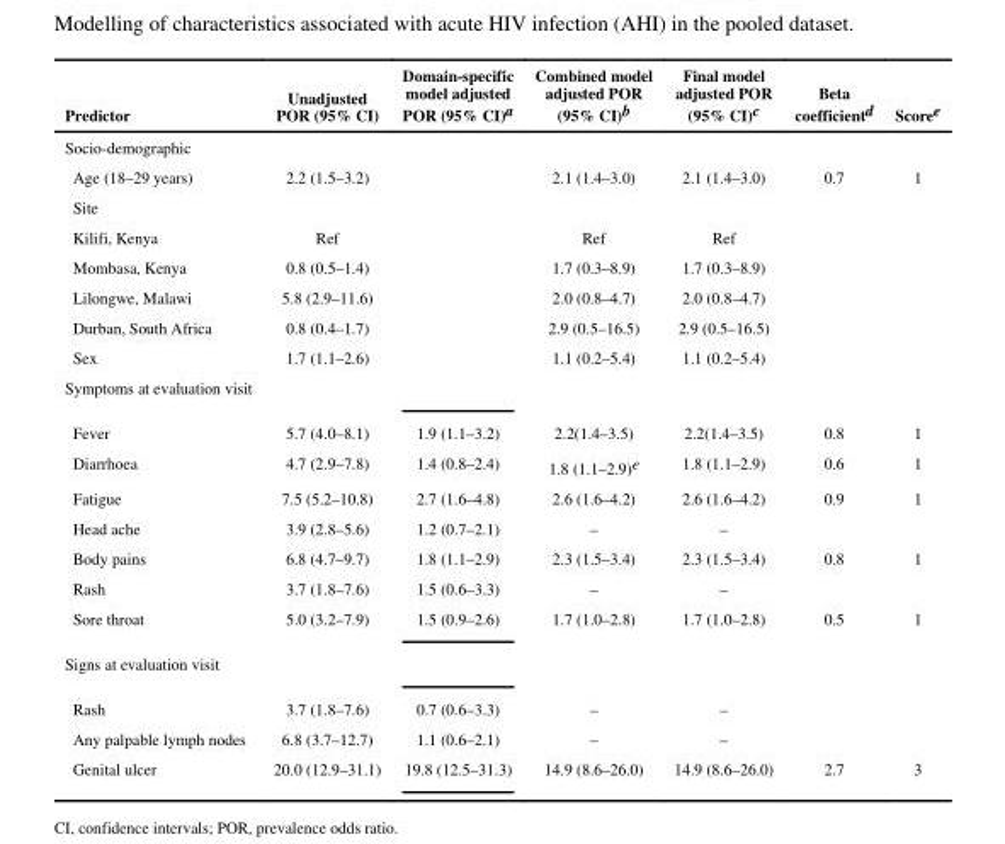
<table><thead><tr><td>Predictor</td><td>Unadjusted POR (95% CI)</td><td>Domain-specific model adjusted POR (95% CI)<sup>a</sup></td><td>Combined model adjusted POR (95% CI)<sup>b</sup></td><td>Final model adjusted POR (95% CI)<sup>c</sup></td><td>Beta coefficient<sup>d</sup></td><td>Score<sup>e</sup></td></tr></thead><tbody><tr><td colspan="7">Socio-demographic</td></tr><tr><td>Age (18–29 years)</td><td>2.2 (1.5–3.2)</td><td></td><td>2.1 (1.4–3.0)</td><td>2.1 (1.4–3.0)</td><td>0.7</td><td>1</td></tr><tr><td colspan="7">Site</td></tr><tr><td>Kilifi, Kenya</td><td>Ref</td><td></td><td>Ref</td><td>Ref</td><td></td><td></td></tr><tr><td>Mombasa, Kenya</td><td>0.8 (0.5–1.4)</td><td></td><td>1.7 (0.3–8.9)</td><td>1.7 (0.3–8.9)</td><td></td><td></td></tr><tr><td>Lilongwe, Malawi</td><td>5.8 (2.9–11.6)</td><td></td><td>2.0 (0.8–4.7)</td><td>2.0 (0.8–4.7)</td><td></td><td></td></tr><tr><td>Durban, South Africa</td><td>0.8 (0.4–1.7)</td><td></td><td>2.9 (0.5–16.5)</td><td>2.9 (0.5–16.5)</td><td></td><td></td></tr><tr><td>Sex</td><td>1.7 (1.1–2.6)</td><td></td><td>1.1 (0.2–5.4)</td><td>1.1 (0.2–5.4)</td><td></td><td></td></tr><tr><td colspan="7">Symptoms at evaluation visit</td></tr><tr><td>Fever</td><td>5.7 (4.0–8.1)</td><td>1.9 (1.1–3.2)</td><td>2.2(1.4–3.5)</td><td>2.2(1.4–3.5)</td><td>0.8</td><td>1</td></tr><tr><td>Diarrhoea</td><td>4.7 (2.9–7.8)</td><td>1.4 (0.8–2.4)</td><td>1.8 (1.1–2.9)<sup>e</sup></td><td>1.8 (1.1–2.9)</td><td>0.6</td><td>1</td></tr><tr><td>Fatigue</td><td>7.5 (5.2–10.8)</td><td>2.7 (1.6–4.8)</td><td>2.6 (1.6–4.2)</td><td>2.6 (1.6–4.2)</td><td>0.9</td><td>1</td></tr><tr><td>Head ache</td><td>3.9 (2.8–5.6)</td><td>1.2 (0.7–2.1)</td><td>–</td><td>–</td><td></td><td></td></tr><tr><td>Body pains</td><td>6.8 (4.7–9.7)</td><td>1.8 (1.1–2.9)</td><td>2.3 (1.5–3.4)</td><td>2.3 (1.5–3.4)</td><td>0.8</td><td>1</td></tr><tr><td>Rash</td><td>3.7 (1.8–7.6)</td><td>1.5 (0.6–3.3)</td><td>–</td><td>–</td><td></td><td></td></tr><tr><td>Sore throat</td><td>5.0 (3.2–7.9)</td><td>1.5 (0.9–2.6)</td><td>1.7 (1.0–2.8)</td><td>1.7 (1.0–2.8)</td><td>0.5</td><td>1</td></tr><tr><td colspan="7">Signs at evaluation visit</td></tr><tr><td>Rash</td><td>3.7 (1.8–7.6)</td><td>0.7 (0.6–3.3)</td><td>–</td><td>–</td><td></td><td></td></tr><tr><td>Any palpable lymph nodes</td><td>6.8 (3.7–12.7)</td><td>1.1 (0.6–2.1)</td><td>–</td><td>–</td><td></td><td></td></tr><tr><td>Genital ulcer</td><td>20.0 (12.9–31.1)</td><td>19.8 (12.5–31.3)</td><td>14.9 (8.6–26.0)</td><td>14.9 (8.6–26.0)</td><td>2.7</td><td>3</td></tr></tbody></table>